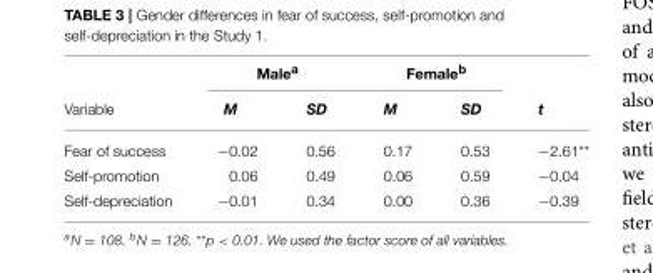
<table><thead><tr><td rowspan="2">Variable</td><td colspan="2">Male<sup>a</sup></td><td colspan="2">Female<sup>b</sup></td><td rowspan="2">t</td></tr><tr><td>M</td><td>SD</td><td>M</td><td>SD</td></tr></thead><tbody><tr><td>Fear of success</td><td>−0.02</td><td>0.56</td><td>0.17</td><td>0.53</td><td>−2.61**</td></tr><tr><td>Self-promotion</td><td>0.06</td><td>0.49</td><td>0.06</td><td>0.59</td><td>−0.04</td></tr><tr><td>Self-depreciation</td><td>−0.01</td><td>0.34</td><td>0.00</td><td>0.36</td><td>−0.39</td></tr></tbody></table>